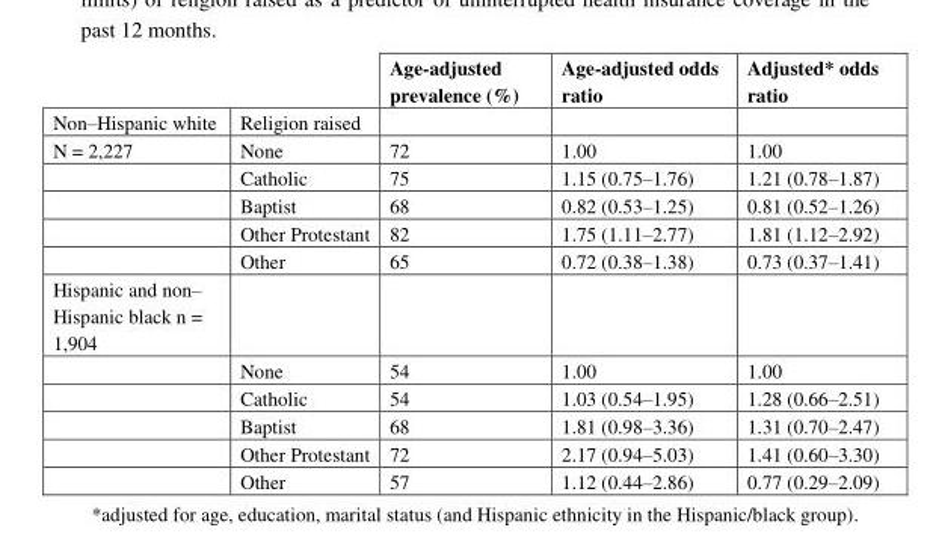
<table><thead><tr><td></td><td></td><td>Age-adjusted prevalence (%)</td><td>Age-adjusted odds ratio</td><td>Adjusted* odds ratio</td></tr></thead><tbody><tr><td>Non–Hispanic white</td><td>Religion raised</td><td></td><td></td><td></td></tr><tr><td rowspan="5">N = 2,227</td><td>None</td><td>72</td><td>1.00</td><td>1.00</td></tr><tr><td>Catholic</td><td>75</td><td>1.15 (0.75–1.76)</td><td>1.21 (0.78–1.87)</td></tr><tr><td>Baptist</td><td>68</td><td>0.82 (0.53–1.25)</td><td>0.81 (0.52–1.26)</td></tr><tr><td>Other Protestant</td><td>82</td><td>1.75 (1.11–2.77)</td><td>1.81 (1.12–2.92)</td></tr><tr><td>Other</td><td>65</td><td>0.72 (0.38–1.38)</td><td>0.73 (0.37–1.41)</td></tr><tr><td colspan="5">Hispanic and non– Hispanic black n = 1,904</td></tr><tr><td></td><td>None</td><td>54</td><td>1.00</td><td>1.00</td></tr><tr><td></td><td>Catholic</td><td>54</td><td>1.03 (0.54–1.95)</td><td>1.28 (0.66–2.51)</td></tr><tr><td></td><td>Baptist</td><td>68</td><td>1.81 (0.98–3.36)</td><td>1.31 (0.70–2.47)</td></tr><tr><td></td><td>Other Protestant</td><td>72</td><td>2.17 (0.94–5.03)</td><td>1.41 (0.60–3.30)</td></tr><tr><td></td><td>Other</td><td>57</td><td>1.12 (0.44–2.86)</td><td>0.77 (0.29–2.09)</td></tr></tbody></table>